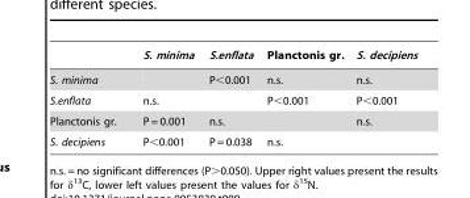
<table><thead><tr><td></td><td>S. minima</td><td>S.enflata</td><td>Planctonis gr.</td><td>S. decipiens</td></tr></thead><tbody><tr><td>S. minima</td><td></td><td>P&lt;0.001</td><td>n.s.</td><td>n.s.</td></tr><tr><td>S.enflata</td><td>n.s.</td><td></td><td>P&lt;0.001</td><td>P&lt;0.001</td></tr><tr><td>Planctonis gr.</td><td>P = 0.001</td><td>n.s.</td><td></td><td>n.s.</td></tr><tr><td>S. decipiens</td><td>P&lt;0.001</td><td>P = 0.038</td><td>n.s.</td><td></td></tr></tbody></table>